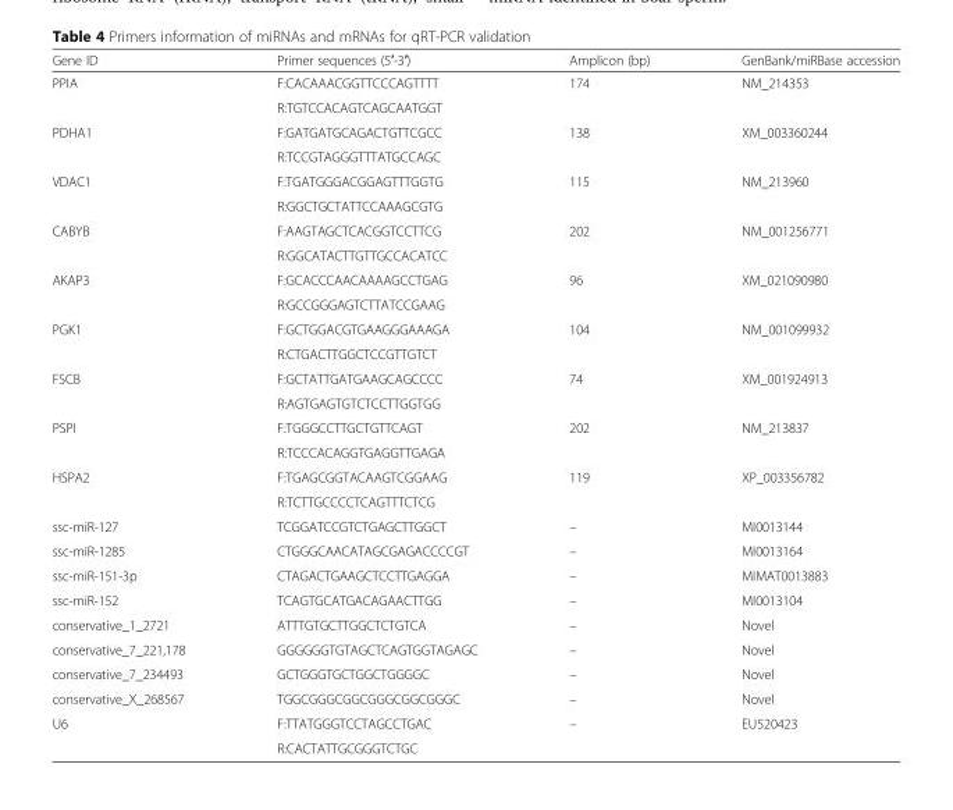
<table><thead><tr><td>Gene ID</td><td>Primer sequences (5′-3′)</td><td>Amplicon (bp)</td><td>GenBank/miRBase accession</td></tr></thead><tbody><tr><td rowspan="2">PPIA</td><td>F:CACAAACGGTTCCCAGTTTT</td><td rowspan="2">174</td><td rowspan="2">NM_214353</td></tr><tr><td>R:TGTCCACAGTCAGCAATGGT</td></tr><tr><td rowspan="2">PDHA1</td><td>F:GATGATGCAGACTGTTCGCC</td><td rowspan="2">138</td><td rowspan="2">XM_003360244</td></tr><tr><td>R:TCCGTAGGGTTTATGCCAGC</td></tr><tr><td rowspan="2">VDAC1</td><td>F:TGATGGGACGGAGTTTGGTG</td><td rowspan="2">115</td><td rowspan="2">NM_213960</td></tr><tr><td>R:GGCTGCTATTCCAAAGCGTG</td></tr><tr><td rowspan="2">CABYB</td><td>F:AAGTAGCTCACGGTCCTTCG</td><td rowspan="2">202</td><td rowspan="2">NM_001256771</td></tr><tr><td>R:GGCATACTTGTTGCCACATCC</td></tr><tr><td rowspan="2">AKAP3</td><td>F:GCACCCAACAAAAGCCTGAG</td><td rowspan="2">96</td><td rowspan="2">XM_021090980</td></tr><tr><td>R:GCCGGGAGTCTTATCCGAAG</td></tr><tr><td rowspan="2">PGK1</td><td>F:GCTGGACGTGAAGGGAAAGA</td><td rowspan="2">104</td><td rowspan="2">NM_001099932</td></tr><tr><td>R:CTGACTTGGCTCCGTTGTCT</td></tr><tr><td rowspan="2">FSCB</td><td>F:GCTATTGATGAAGCAGCCCC</td><td rowspan="2">74</td><td rowspan="2">XM_001924913</td></tr><tr><td>R:AGTGAGTGTCTCCTTGGTGG</td></tr><tr><td rowspan="2">PSPI</td><td>F:TGGGCCTTGCTGTTCAGT</td><td rowspan="2">202</td><td rowspan="2">NM_213837</td></tr><tr><td>R:TCCCACAGGTGAGGTTGAGA</td></tr><tr><td rowspan="2">HSPA2</td><td>F:TGAGCGGTACAAGTCGGAAG</td><td rowspan="2">119</td><td rowspan="2">XP_003356782</td></tr><tr><td>R:TCTTGCCCCTCAGTTTCTCG</td></tr><tr><td>ssc-miR-127</td><td>TCGGATCCGTCTGAGCTTGGCT</td><td>–</td><td>MI0013144</td></tr><tr><td>ssc-miR-1285</td><td>CTGGGCAACATAGCGAGACCCCGT</td><td>–</td><td>MI0013164</td></tr><tr><td>ssc-miR-151-3p</td><td>CTAGACTGAAGCTCCTTGAGGA</td><td>–</td><td>MIMAT0013883</td></tr><tr><td>ssc-miR-152</td><td>TCAGTGCATGACAGAACTTGG</td><td>–</td><td>MI0013104</td></tr><tr><td>conservative_1_2721</td><td>ATTTGTGCTTGGCTCTGTCA</td><td>–</td><td>Novel</td></tr><tr><td>conservative_7_221,178</td><td>GGGGGGTGTAGCTCAGTGGTAGAGC</td><td>–</td><td>Novel</td></tr><tr><td>conservative_7_234493</td><td>GCTGGGTGCTGGCTGGGGC</td><td>–</td><td>Novel</td></tr><tr><td>conservative_X_268567</td><td>TGGCGGGCGGCGGGCGGCGGGC</td><td>–</td><td>Novel</td></tr><tr><td rowspan="2">U6</td><td>F:TTATGGGTCCTAGCCTGAC</td><td rowspan="2">–</td><td rowspan="2">EU520423</td></tr><tr><td>R:CACTATTGCGGGTCTGC</td></tr></tbody></table>